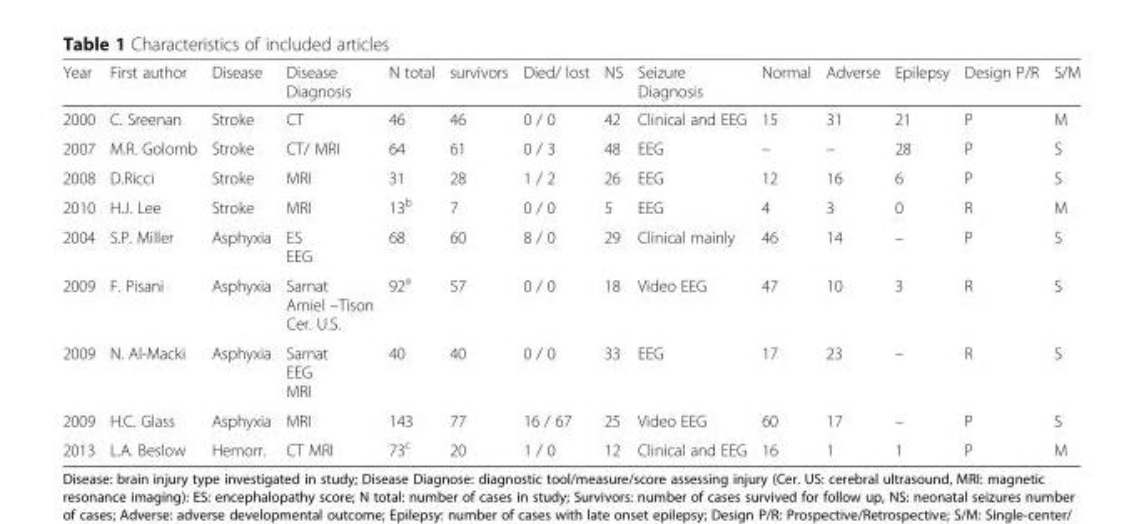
<table><thead><tr><td>Year</td><td>First author</td><td>Disease</td><td>Disease Diagnosis</td><td>N total</td><td>survivors</td><td>Died/ lost</td><td>NS</td><td>Seizure Diagnosis</td><td>Normal</td><td>Adverse</td><td>Epilepsy</td><td>Design P/R</td><td>S/M</td></tr></thead><tbody><tr><td>2000</td><td>C. Sreenan</td><td>Stroke</td><td>CT</td><td>46</td><td>46</td><td>0 / 0</td><td>42</td><td>Clinical and EEG</td><td>15</td><td>31</td><td>21</td><td>P</td><td>M</td></tr><tr><td>2007</td><td>M.R. Golomb</td><td>Stroke</td><td>CT/ MRI</td><td>64</td><td>61</td><td>0 / 3</td><td>48</td><td>EEG</td><td>–</td><td>–</td><td>28</td><td>P</td><td>S</td></tr><tr><td>2008</td><td>D.Ricci</td><td>Stroke</td><td>MRI</td><td>31</td><td>28</td><td>1 / 2</td><td>26</td><td>EEG</td><td>12</td><td>16</td><td>6</td><td>P</td><td>S</td></tr><tr><td>2010</td><td>H.J. Lee</td><td>Stroke</td><td>MRI</td><td>13<sup>b</sup></td><td>7</td><td>0 / 0</td><td>5</td><td>EEG</td><td>4</td><td>3</td><td>0</td><td>R</td><td>M</td></tr><tr><td>2004</td><td>S.P. Miller</td><td>Asphyxia</td><td>ES EEG</td><td>68</td><td>60</td><td>8 / 0</td><td>29</td><td>Clinical mainly</td><td>46</td><td>14</td><td>–</td><td>P</td><td>S</td></tr><tr><td>2009</td><td>F. Pisani</td><td>Asphyxia</td><td>Sarnat Amiel –Tison Cer. U.S.</td><td>92<sup>a</sup></td><td>57</td><td>0 / 0</td><td>18</td><td>Video EEG</td><td>47</td><td>10</td><td>3</td><td>R</td><td>S</td></tr><tr><td>2009</td><td>N. Al-Macki</td><td>Asphyxia</td><td>Sarnat EEG MRI</td><td>40</td><td>40</td><td>0 / 0</td><td>33</td><td>EEG</td><td>17</td><td>23</td><td>–</td><td>R</td><td>S</td></tr><tr><td>2009</td><td>H.C. Glass</td><td>Asphyxia</td><td>MRI</td><td>143</td><td>77</td><td>16 / 67</td><td>25</td><td>Video EEG</td><td>60</td><td>17</td><td>–</td><td>P</td><td>S</td></tr><tr><td>2013</td><td>L.A. Beslow</td><td>Hemorr.</td><td>CT MRI</td><td>73<sup>c</sup></td><td>20</td><td>1 / 0</td><td>12</td><td>Clinical and EEG</td><td>16</td><td>1</td><td>1</td><td>P</td><td>M</td></tr></tbody></table>